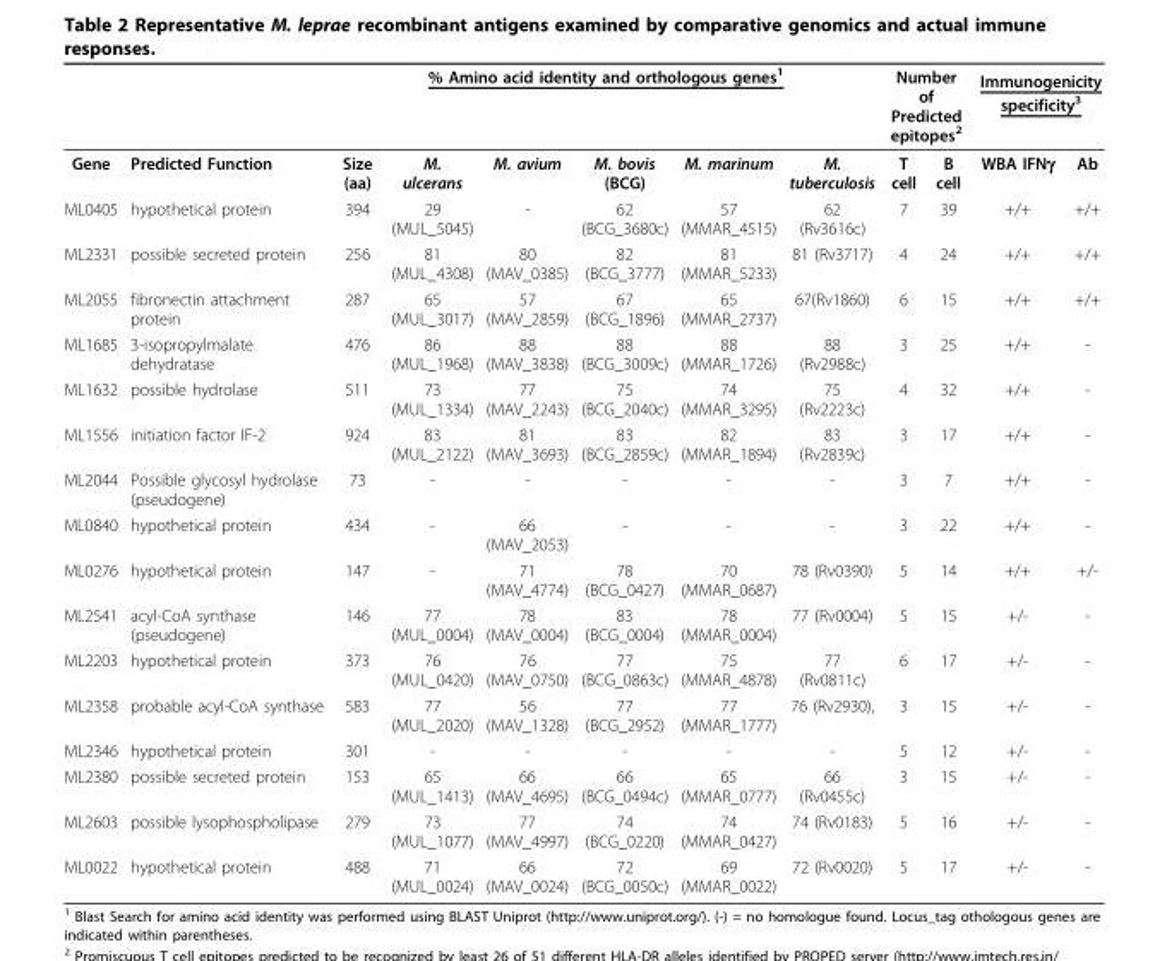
<table><thead><tr><td rowspan="2">Gene</td><td rowspan="2">Predicted Function</td><td colspan="6">% Amino acid identity and orthologous genes<sup>1</sup></td><td colspan="2">Number of Predicted epitopes<sup>2</sup></td><td colspan="2">Immunogenicity specificity<sup>3</sup></td></tr><tr><td>Size (aa)</td><td>M. ulcerans</td><td>M. avium</td><td>M. bovis (BCG)</td><td>M. marinum</td><td>M. tuberculosis</td><td>T cell</td><td>B cell</td><td>WBA IFNγ</td><td>Ab</td></tr></thead><tbody><tr><td>ML0405</td><td>hypothetical protein</td><td>394</td><td>29 (MUL_5045)</td><td>-</td><td>62 (BCG_3680c)</td><td>57 (MMAR_4515)</td><td>62 (Rv3616c)</td><td>7</td><td>39</td><td>+/+</td><td>+/+</td></tr><tr><td>ML2331</td><td>possible secreted protein</td><td>256</td><td>81 (MUL_4308)</td><td>80 (MAV_0385)</td><td>82 (BCG_3777)</td><td>81 (MMAR_5233)</td><td>81 (Rv3717)</td><td>4</td><td>24</td><td>+/+</td><td>+/+</td></tr><tr><td>ML2055</td><td>fibronectin attachment protein</td><td>287</td><td>65 (MUL_3017)</td><td>57 (MAV_2859)</td><td>67 (BCG_1896)</td><td>65 (MMAR_2737)</td><td>67(Rv1860)</td><td>6</td><td>15</td><td>+/+</td><td>+/+</td></tr><tr><td>ML1685</td><td>3-isopropylmalate dehydratase</td><td>476</td><td>86 (MUL_1968)</td><td>88 (MAV_3838)</td><td>88 (BCG_3009c)</td><td>88 (MMAR_1726)</td><td>88 (Rv2988c)</td><td>3</td><td>25</td><td>+/+</td><td>-</td></tr><tr><td>ML1632</td><td>possible hydrolase</td><td>511</td><td>73 (MUL_1334)</td><td>77 (MAV_2243)</td><td>75 (BCG_2040c)</td><td>74 (MMAR_3295)</td><td>75 (Rv2223c)</td><td>4</td><td>32</td><td>+/+</td><td>-</td></tr><tr><td>ML1556</td><td>initiation factor IF-2</td><td>924</td><td>83 (MUL_2122)</td><td>81 (MAV_3693)</td><td>83 (BCG_2859c)</td><td>82 (MMAR_1894)</td><td>83 (Rv2839c)</td><td>3</td><td>17</td><td>+/+</td><td>-</td></tr><tr><td>ML2044</td><td>Possible glycosyl hydrolase (pseudogene)</td><td>73</td><td>-</td><td>-</td><td>-</td><td>-</td><td>-</td><td>3</td><td>7</td><td>+/+</td><td>-</td></tr><tr><td>ML0840</td><td>hypothetical protein</td><td>434</td><td>-</td><td>66 (MAV_2053)</td><td>-</td><td>-</td><td>-</td><td>3</td><td>22</td><td>+/+</td><td>-</td></tr><tr><td>ML0276</td><td>hypothetical protein</td><td>147</td><td>-</td><td>71 (MAV_4774)</td><td>78 (BCG_0427)</td><td>70 (MMAR_0687)</td><td>78 (Rv0390)</td><td>5</td><td>14</td><td>+/+</td><td>+/-</td></tr><tr><td>ML2541</td><td>acyl-CoA synthase (pseudogene)</td><td>146</td><td>77 (MUL_0004)</td><td>78 (MAV_0004)</td><td>83 (BCG_0004)</td><td>78 (MMAR_0004)</td><td>77 (Rv0004)</td><td>5</td><td>15</td><td>+/-</td><td>-</td></tr><tr><td>ML2203</td><td>hypothetical protein</td><td>373</td><td>76 (MUL_0420)</td><td>76 (MAV_0750)</td><td>77 (BCG_0863c)</td><td>75 (MMAR_4878)</td><td>77 (Rv0811c)</td><td>6</td><td>17</td><td>+/-</td><td>-</td></tr><tr><td>ML2358</td><td>probable acyl-CoA synthase</td><td>583</td><td>77 (MUL_2020)</td><td>56 (MAV_1328)</td><td>77 (BCG_2952)</td><td>77 (MMAR_1777)</td><td>76 (Rv2930),</td><td>3</td><td>15</td><td>+/-</td><td>-</td></tr><tr><td>ML2346</td><td>hypothetical protein</td><td>301</td><td>-</td><td>-</td><td>-</td><td>-</td><td>-</td><td>5</td><td>12</td><td>+/-</td><td>-</td></tr><tr><td>ML2380</td><td>possible secreted protein</td><td>153</td><td>65 (MUL_1413)</td><td>66 (MAV_4695)</td><td>66 (BCG_0494c)</td><td>65 (MMAR_0777)</td><td>66 (Rv0455c)</td><td>3</td><td>15</td><td>+/-</td><td>-</td></tr><tr><td>ML2603</td><td>possible lysophospholipase</td><td>279</td><td>73 (MUL_1077)</td><td>77 (MAV_4997)</td><td>74 (BCG_0220)</td><td>74 (MMAR_0427)</td><td>74 (Rv0183)</td><td>5</td><td>16</td><td>+/-</td><td>-</td></tr><tr><td>ML0022</td><td>hypothetical protein</td><td>488</td><td>71 (MUL_0024)</td><td>66 (MAV_0024)</td><td>72 (BCG_0050c)</td><td>69 (MMAR_0022)</td><td>72 (Rv0020)</td><td>5</td><td>17</td><td>+/-</td><td>-</td></tr></tbody></table>